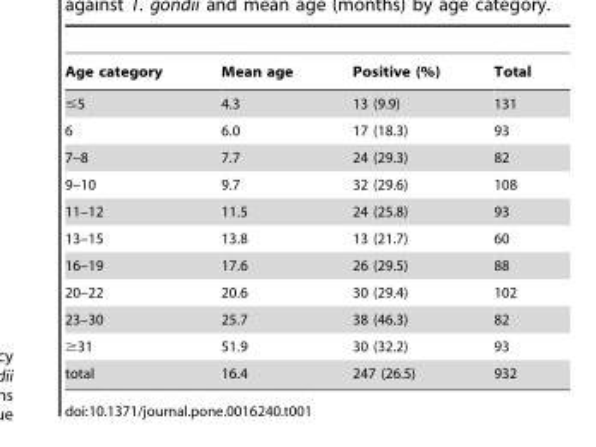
<table><thead><tr><td>Age category</td><td>Mean age</td><td>Positive (%)</td><td>Total</td></tr></thead><tbody><tr><td>≤5</td><td>4.3</td><td>13 (9.9)</td><td>131</td></tr><tr><td>6</td><td>6.0</td><td>17 (18.3)</td><td>93</td></tr><tr><td>7–8</td><td>7.7</td><td>24 (29.3)</td><td>82</td></tr><tr><td>9–10</td><td>9.7</td><td>32 (29.6)</td><td>108</td></tr><tr><td>11–12</td><td>11.5</td><td>24 (25.8)</td><td>93</td></tr><tr><td>13–15</td><td>13.8</td><td>13 (21.7)</td><td>60</td></tr><tr><td>16–19</td><td>17.6</td><td>26 (29.5)</td><td>88</td></tr><tr><td>20–22</td><td>20.6</td><td>30 (29.4)</td><td>102</td></tr><tr><td>23–30</td><td>25.7</td><td>38 (46.3)</td><td>82</td></tr><tr><td>≥31</td><td>51.9</td><td>30 (32.2)</td><td>93</td></tr><tr><td>total</td><td>16.4</td><td>247 (26.5)</td><td>932</td></tr></tbody></table>